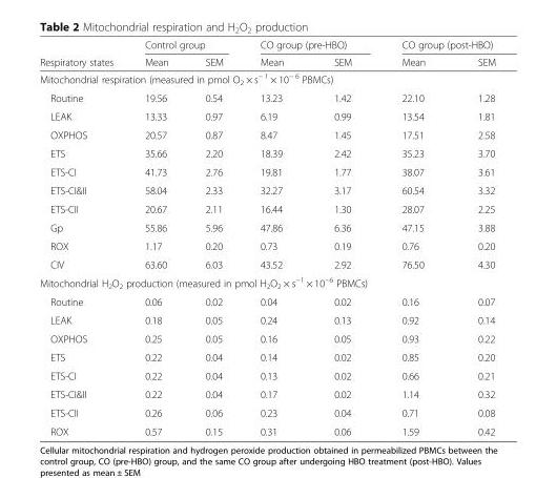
<table><thead><tr><td rowspan="2">Respiratory states</td><td colspan="2">Control group</td><td colspan="2">CO group (pre-HBO)</td><td colspan="2">CO group (post-HBO)</td></tr><tr><td>Mean</td><td>SEM</td><td>Mean</td><td>SEM</td><td>Mean</td><td>SEM</td></tr></thead><tbody><tr><td colspan="7">Mitochondrial respiration (measured in pmol O<sub>2</sub> × s<sup>− 1</sup> × 10<sup>− 6</sup> PBMCs)</td></tr><tr><td>Routine</td><td>19.56</td><td>0.54</td><td>13.23</td><td>1.42</td><td>22.10</td><td>1.28</td></tr><tr><td>LEAK</td><td>13.33</td><td>0.97</td><td>6.19</td><td>0.99</td><td>13.54</td><td>1.81</td></tr><tr><td>OXPHOS</td><td>20.57</td><td>0.87</td><td>8.47</td><td>1.45</td><td>17.51</td><td>2.58</td></tr><tr><td>ETS</td><td>35.66</td><td>2.20</td><td>18.39</td><td>2.42</td><td>35.23</td><td>3.70</td></tr><tr><td>ETS-CI</td><td>41.73</td><td>2.76</td><td>19.81</td><td>1.77</td><td>38.07</td><td>3.61</td></tr><tr><td>ETS-CI&amp;II</td><td>58.04</td><td>2.33</td><td>32.27</td><td>3.17</td><td>60.54</td><td>3.32</td></tr><tr><td>ETS-CII</td><td>20.67</td><td>2.11</td><td>16.44</td><td>1.30</td><td>28.07</td><td>2.25</td></tr><tr><td>Gp</td><td>55.86</td><td>5.96</td><td>47.86</td><td>6.36</td><td>47.15</td><td>3.88</td></tr><tr><td>ROX</td><td>1.17</td><td>0.20</td><td>0.73</td><td>0.19</td><td>0.76</td><td>0.20</td></tr><tr><td>CIV</td><td>63.60</td><td>6.03</td><td>43.52</td><td>2.92</td><td>76.50</td><td>4.30</td></tr><tr><td colspan="7">Mitochondrial H<sub>2</sub>O<sub>2</sub> production (measured in pmol H<sub>2</sub>O<sub>2</sub> × s<sup>−1</sup> × 10<sup>−6</sup> PBMCs)</td></tr><tr><td>Routine</td><td>0.06</td><td>0.02</td><td>0.04</td><td>0.02</td><td>0.16</td><td>0.07</td></tr><tr><td>LEAK</td><td>0.18</td><td>0.05</td><td>0.24</td><td>0.13</td><td>0.92</td><td>0.14</td></tr><tr><td>OXPHOS</td><td>0.25</td><td>0.05</td><td>0.16</td><td>0.05</td><td>0.93</td><td>0.22</td></tr><tr><td>ETS</td><td>0.22</td><td>0.04</td><td>0.14</td><td>0.02</td><td>0.85</td><td>0.20</td></tr><tr><td>ETS-CI</td><td>0.22</td><td>0.04</td><td>0.13</td><td>0.02</td><td>0.66</td><td>0.21</td></tr><tr><td>ETS-CI&amp;II</td><td>0.22</td><td>0.04</td><td>0.17</td><td>0.02</td><td>1.14</td><td>0.32</td></tr><tr><td>ETS-CII</td><td>0.26</td><td>0.06</td><td>0.23</td><td>0.04</td><td>0.71</td><td>0.08</td></tr><tr><td>ROX</td><td>0.57</td><td>0.15</td><td>0.31</td><td>0.06</td><td>1.59</td><td>0.42</td></tr></tbody></table>